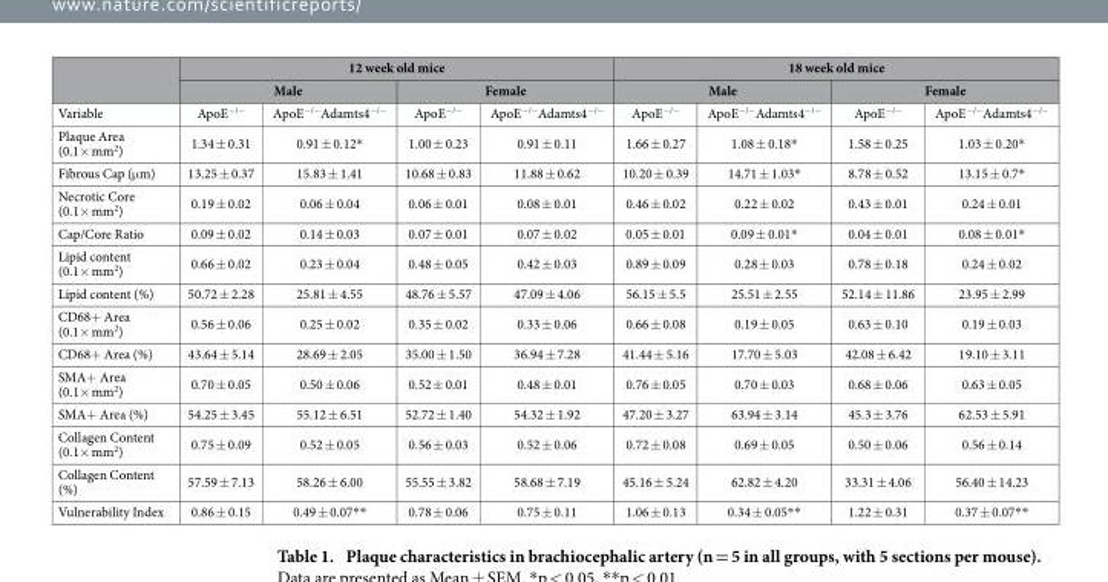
<table><thead><tr><td rowspan="3">Variable</td><td colspan="4">12 week old mice</td><td colspan="4">18 week old mice</td></tr><tr><td colspan="2">Male</td><td colspan="2">Female</td><td colspan="2">Male</td><td colspan="2">Female</td></tr><tr><td>ApoE<sup>−/−</sup></td><td>ApoE<sup>−/−</sup>Adamts4<sup>−/−</sup></td><td>ApoE<sup>−/−</sup></td><td>ApoE<sup>−/−</sup>Adamts4<sup>−/−</sup></td><td>ApoE<sup>−/−</sup></td><td>ApoE<sup>−/−</sup>Adamts4<sup>−/−</sup></td><td>ApoE<sup>−/−</sup></td><td>ApoE<sup>−/−</sup>Adamts4<sup>−/−</sup></td></tr></thead><tbody><tr><td>Plaque Area (0.1× mm<sup>2</sup>)</td><td>1.34 ± 0.31</td><td>0.91 ± 0.12*</td><td>1.00 ± 0.23</td><td>0.91 ± 0.11</td><td>1.66 ± 0.27</td><td>1.08 ± 0.18*</td><td>1.58 ± 0.25</td><td>1.03 ± 0.20*</td></tr><tr><td>Fibrous Cap (μ m)</td><td>13.25 ± 0.37</td><td>15.83 ± 1.41</td><td>10.68 ± 0.83</td><td>11.88 ± 0.62</td><td>10.20 ± 0.39</td><td>14.71 ± 1.03*</td><td>8.78 ± 0.52</td><td>13.15 ± 0.7*</td></tr><tr><td>Necrotic Core (0.1× mm<sup>2</sup>)</td><td>0.19 ± 0.02</td><td>0.06 ± 0.04</td><td>0.06 ± 0.01</td><td>0.08 ± 0.01</td><td>0.46 ± 0.02</td><td>0.22 ± 0.02</td><td>0.43 ± 0.01</td><td>0.24 ± 0.01</td></tr><tr><td>Cap/Core Ratio</td><td>0.09 ± 0.02</td><td>0.14 ± 0.03</td><td>0.07 ± 0.01</td><td>0.07 ± 0.02</td><td>0.05 ± 0.01</td><td>0.09 ± 0.01*</td><td>0.04 ± 0.01</td><td>0.08 ± 0.01*</td></tr><tr><td>Lipid content (0.1× mm<sup>2</sup>)</td><td>0.66 ± 0.02</td><td>0.23 ± 0.04</td><td>0.48 ± 0.05</td><td>0.42 ± 0.03</td><td>0.89 ± 0.09</td><td>0.28 ± 0.03</td><td>0.78 ± 0.18</td><td>0.24 ± 0.02</td></tr><tr><td>Lipid content (%)</td><td>50.72 ± 2.28</td><td>25.81 ± 4.55</td><td>48.76 ± 5.57</td><td>47.09 ± 4.06</td><td>56.15 ± 5.5</td><td>25.51 ± 2.55</td><td>52.14 ± 11.86</td><td>23.95 ± 2.99</td></tr><tr><td>CD68+ Area (0.1× mm<sup>2</sup>)</td><td>0.56 ± 0.06</td><td>0.25 ± 0.02</td><td>0.35 ± 0.02</td><td>0.33 ± 0.06</td><td>0.66 ± 0.08</td><td>0.19 ± 0.05</td><td>0.63 ± 0.10</td><td>0.19 ± 0.03</td></tr><tr><td>CD68+ Area (%)</td><td>43.64 ± 5.14</td><td>28.69 ± 2.05</td><td>35.00 ± 1.50</td><td>36.94 ± 7.28</td><td>41.44 ± 5.16</td><td>17.70 ± 5.03</td><td>42.08 ± 6.42</td><td>19.10 ± 3.11</td></tr><tr><td>SMA+ Area (0.1× mm<sup>2</sup>)</td><td>0.70 ± 0.05</td><td>0.50 ± 0.06</td><td>0.52 ± 0.01</td><td>0.48 ± 0.01</td><td>0.76 ± 0.05</td><td>0.70 ± 0.03</td><td>0.68 ± 0.06</td><td>0.63 ± 0.05</td></tr><tr><td>SMA+ Area (%)</td><td>54.25 ± 3.45</td><td>55.12 ± 6.51</td><td>52.72 ± 1.40</td><td>54.32 ± 1.92</td><td>47.20 ± 3.27</td><td>63.94 ± 3.14</td><td>45.3 ± 3.76</td><td>62.53 ± 5.91</td></tr><tr><td>Collagen Content (0.1× mm<sup>2</sup>)</td><td>0.75 ± 0.09</td><td>0.52 ± 0.05</td><td>0.56 ± 0.03</td><td>0.52 ± 0.06</td><td>0.72 ± 0.08</td><td>0.69 ± 0.05</td><td>0.50 ± 0.06</td><td>0.56 ± 0.14</td></tr><tr><td>Collagen Content (%)</td><td>57.59 ± 7.13</td><td>58.26 ± 6.00</td><td>55.55 ± 3.82</td><td>58.68 ± 7.19</td><td>45.16 ± 5.24</td><td>62.82 ± 4.20</td><td>33.31 ± 4.06</td><td>56.40 ± 14.23</td></tr><tr><td>Vulnerability Index</td><td>0.86 ± 0.15</td><td>0.49 ± 0.07* *</td><td>0.78 ± 0.06</td><td>0.75 ± 0.11</td><td>1.06 ± 0.13</td><td>0.34 ± 0.05* *</td><td>1.22 ± 0.31</td><td>0.37 ± 0.07* *</td></tr></tbody></table>